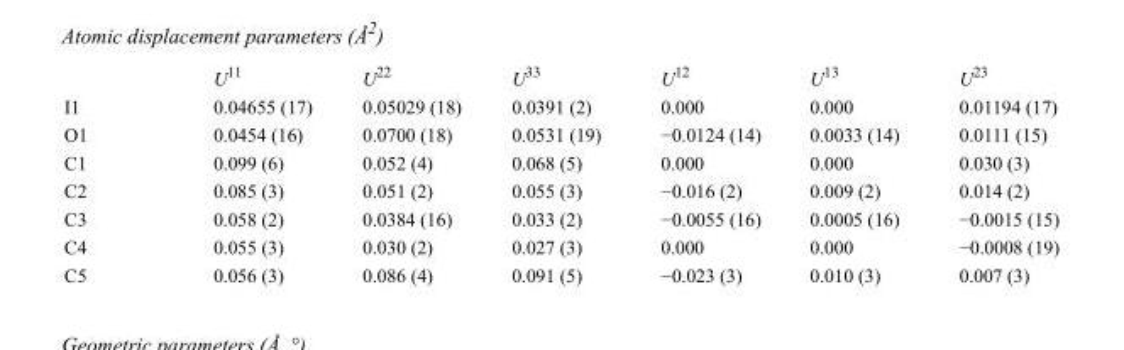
<table><thead><tr><td></td><td>U<sup>11</sup></td><td>U<sup>22</sup></td><td>U<sup>33</sup></td><td>U<sup>12</sup></td><td>U<sup>13</sup></td><td>U<sup>23</sup></td></tr></thead><tbody><tr><td>I1</td><td>0.04655 (17)</td><td>0.05029 (18)</td><td>0.0391 (2)</td><td>0.000</td><td>0.000</td><td>0.01194 (17)</td></tr><tr><td>O1</td><td>0.0454 (16)</td><td>0.0700 (18)</td><td>0.0531 (19)</td><td>−0.0124 (14)</td><td>0.0033 (14)</td><td>0.0111 (15)</td></tr><tr><td>C1</td><td>0.099 (6)</td><td>0.052 (4)</td><td>0.068 (5)</td><td>0.000</td><td>0.000</td><td>0.030 (3)</td></tr><tr><td>C2</td><td>0.085 (3)</td><td>0.051 (2)</td><td>0.055 (3)</td><td>−0.016 (2)</td><td>0.009 (2)</td><td>0.014 (2)</td></tr><tr><td>C3</td><td>0.058 (2)</td><td>0.0384 (16)</td><td>0.033 (2)</td><td>−0.0055 (16)</td><td>0.0005 (16)</td><td>−0.0015 (15)</td></tr><tr><td>C4</td><td>0.055 (3)</td><td>0.030 (2)</td><td>0.027 (3)</td><td>0.000</td><td>0.000</td><td>−0.0008 (19)</td></tr><tr><td>C5</td><td>0.056 (3)</td><td>0.086 (4)</td><td>0.091 (5)</td><td>−0.023 (3)</td><td>0.010 (3)</td><td>0.007 (3)</td></tr></tbody></table>